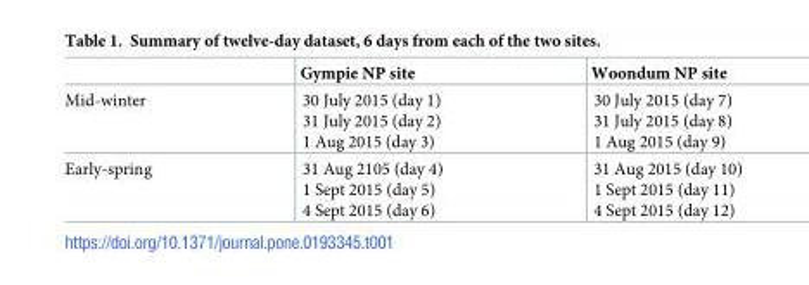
<table><thead><tr><td></td><td>Gympie NP site</td><td>Woondum NP site</td></tr></thead><tbody><tr><td>Mid-winter</td><td>30 July 2015 (day 1) 31 July 2015 (day 2) 1 Aug 2015 (day 3)</td><td>30 July 2015 (day 7) 31 July 2015 (day 8) 1 Aug 2015 (day 9)</td></tr><tr><td>Early-spring</td><td>31 Aug 2105 (day 4) 1 Sept 2015 (day 5) 4 Sept 2015 (day 6)</td><td>31 Aug 2015 (day 10) 1 Sept 2015 (day 11) 4 Sept 2015 (day 12)</td></tr></tbody></table>